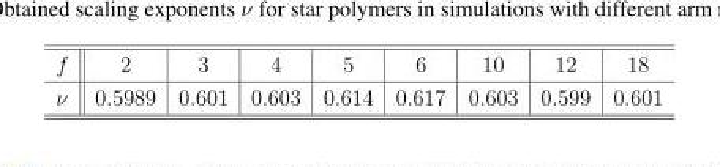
<table><tbody><tr><td>f</td><td>2</td><td>3</td><td>4</td><td>5</td><td>6</td><td>10</td><td>12</td><td>18</td></tr><tr><td>ν</td><td>0.5989</td><td>0.601</td><td>0.603</td><td>0.614</td><td>0.617</td><td>0.603</td><td>0.599</td><td>0.601</td></tr></tbody></table>